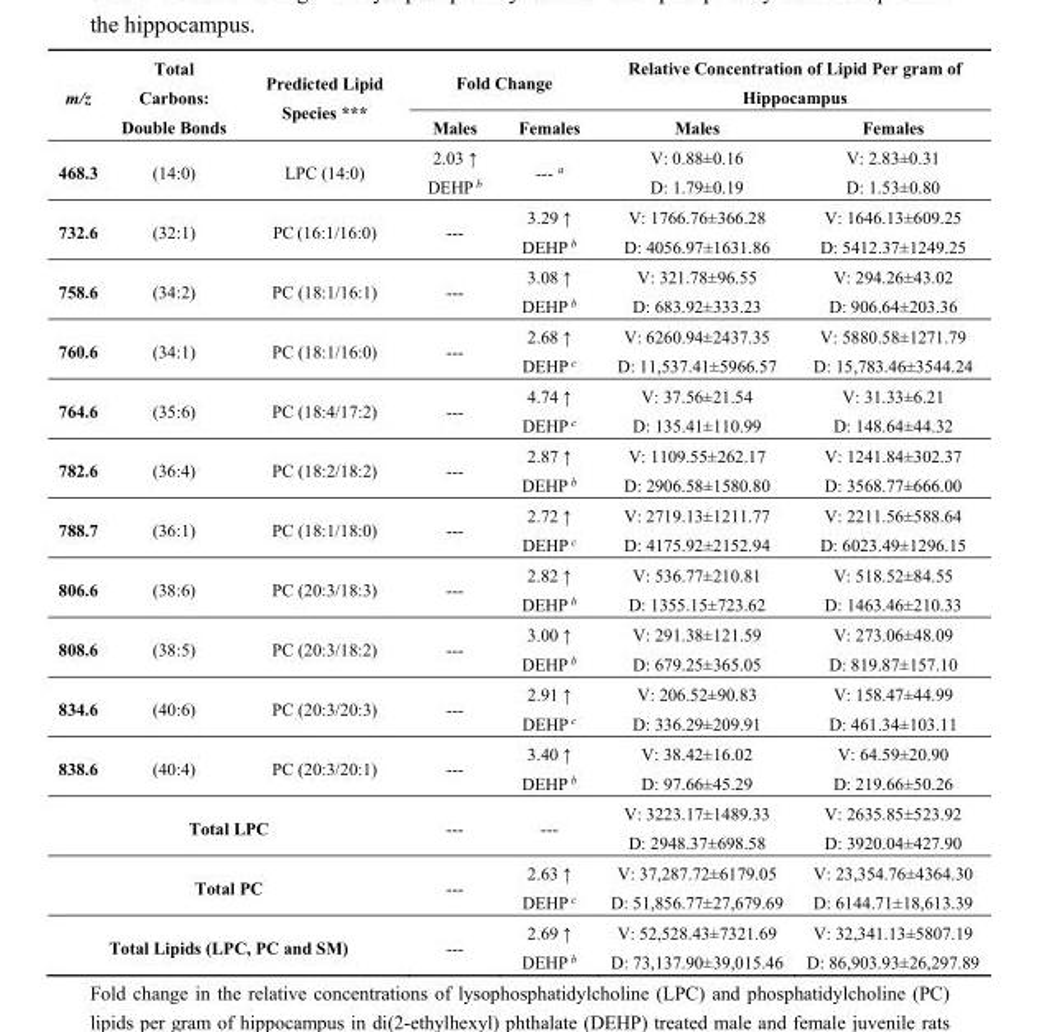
<table><thead><tr><td rowspan="2">m/z</td><td rowspan="2">Total Carbons: Double Bonds</td><td rowspan="2">Predicted Lipid Species ***</td><td colspan="2">Fold Change</td><td colspan="2">Relative Concentration of Lipid Per gram of Hippocampus</td></tr><tr><td>Males</td><td>Females</td><td>Males</td><td>Females</td></tr></thead><tbody><tr><td>468.3</td><td>(14:0)</td><td>LPC (14:0)</td><td>2.03 ↑ DEHP <sup>b</sup></td><td>--- <sup>a</sup></td><td>V: 0.88±0.16 D: 1.79±0.19</td><td>V: 2.83±0.31 D: 1.53±0.80</td></tr><tr><td>732.6</td><td>(32:1)</td><td>PC (16:1/16:0)</td><td>---</td><td>3.29 ↑ DEHP <sup>b</sup></td><td>V: 1766.76±366.28 D: 4056.97±1631.86</td><td>V: 1646.13±609.25 D: 5412.37±1249.25</td></tr><tr><td>758.6</td><td>(34:2)</td><td>PC (18:1/16:1)</td><td>---</td><td>3.08 ↑ DEHP <sup>b</sup></td><td>V: 321.78±96.55 D: 683.92±333.23</td><td>V: 294.26±43.02 D: 906.64±203.36</td></tr><tr><td>760.6</td><td>(34:1)</td><td>PC (18:1/16:0)</td><td>---</td><td>2.68 ↑ DEHP <sup>c</sup></td><td>V: 6260.94±2437.35 D: 11,537.41±5966.57</td><td>V: 5880.58±1271.79 D: 15,783.46±3544.24</td></tr><tr><td>764.6</td><td>(35:6)</td><td>PC (18:4/17:2)</td><td>---</td><td>4.74 ↑ DEHP <sup>c</sup></td><td>V: 37.56±21.54 D: 135.41±110.99</td><td>V: 31.33±6.21 D: 148.64±44.32</td></tr><tr><td>782.6</td><td>(36:4)</td><td>PC (18:2/18:2)</td><td>---</td><td>2.87 ↑ DEHP <sup>b</sup></td><td>V: 1109.55±262.17 D: 2906.58±1580.80</td><td>V: 1241.84±302.37 D: 3568.77±666.00</td></tr><tr><td>788.7</td><td>(36:1)</td><td>PC (18:1/18:0)</td><td>---</td><td>2.72 ↑ DEHP <sup>c</sup></td><td>V: 2719.13±1211.77 D: 4175.92±2152.94</td><td>V: 2211.56±588.64 D: 6023.49±1296.15</td></tr><tr><td>806.6</td><td>(38:6)</td><td>PC (20:3/18:3)</td><td>---</td><td>2.82 ↑ DEHP <sup>b</sup></td><td>V: 536.77±210.81 D: 1355.15±723.62</td><td>V: 518.52±84.55 D: 1463.46±210.33</td></tr><tr><td>808.6</td><td>(38:5)</td><td>PC (20:3/18:2)</td><td>---</td><td>3.00 ↑ DEHP <sup>b</sup></td><td>V: 291.38±121.59 D: 679.25±365.05</td><td>V: 273.06±48.09 D: 819.87±157.10</td></tr><tr><td>834.6</td><td>(40:6)</td><td>PC (20:3/20:3)</td><td>---</td><td>2.91 ↑ DEHP <sup>c</sup></td><td>V: 206.52±90.83 D: 336.29±209.91</td><td>V: 158.47±44.99 D: 461.34±103.11</td></tr><tr><td>838.6</td><td>(40:4)</td><td>PC (20:3/20:1)</td><td>---</td><td>3.40 ↑ DEHP <sup>b</sup></td><td>V: 38.42±16.02 D: 97.66±45.29</td><td>V: 64.59±20.90 D: 219.66±50.26</td></tr><tr><td colspan="3">Total LPC</td><td>---</td><td>---</td><td>V: 3223.17±1489.33 D: 2948.37±698.58</td><td>V: 2635.85±523.92 D: 3920.04±427.90</td></tr><tr><td colspan="3">Total PC</td><td>---</td><td>2.63 ↑ DEHP <sup>c</sup></td><td>V: 37,287.72±6179.05 D: 51,856.77±27,679.69</td><td>V: 23,354.76±4364.30 D: 6144.71±18,613.39</td></tr><tr><td colspan="3">Total Lipids (LPC, PC and SM)</td><td>---</td><td>2.69 ↑ DEHP <sup>b</sup></td><td>V: 52,528.43±7321.69 D: 73,137.90±39,015.46</td><td>V: 32,341.13±5807.19 D: 86,903.93±26,297.89</td></tr></tbody></table>